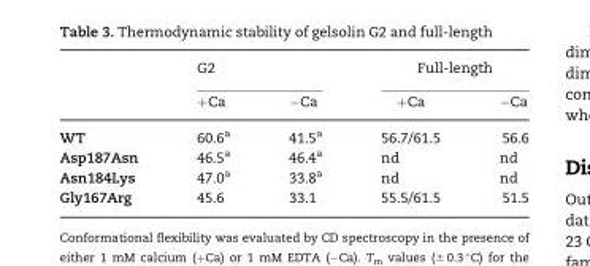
<table><thead><tr><td rowspan="2"></td><td colspan="2">G2</td><td colspan="2">Full-length</td></tr><tr><td>+Ca</td><td>−Ca</td><td>+Ca</td><td>−Ca</td></tr></thead><tbody><tr><td>WT</td><td>60.6<sup>a</sup></td><td>41.5<sup>a</sup></td><td>56.7/61.5</td><td>56.6</td></tr><tr><td>Asp187Asn</td><td>46.5<sup>a</sup></td><td>46.4<sup>a</sup></td><td>nd</td><td>nd</td></tr><tr><td>Asn184Lys</td><td>47.0<sup>a</sup></td><td>33.8<sup>a</sup></td><td>nd</td><td>nd</td></tr><tr><td>Gly167Arg</td><td>45.6</td><td>33.1</td><td>55.5/61.5</td><td>51.5</td></tr></tbody></table>